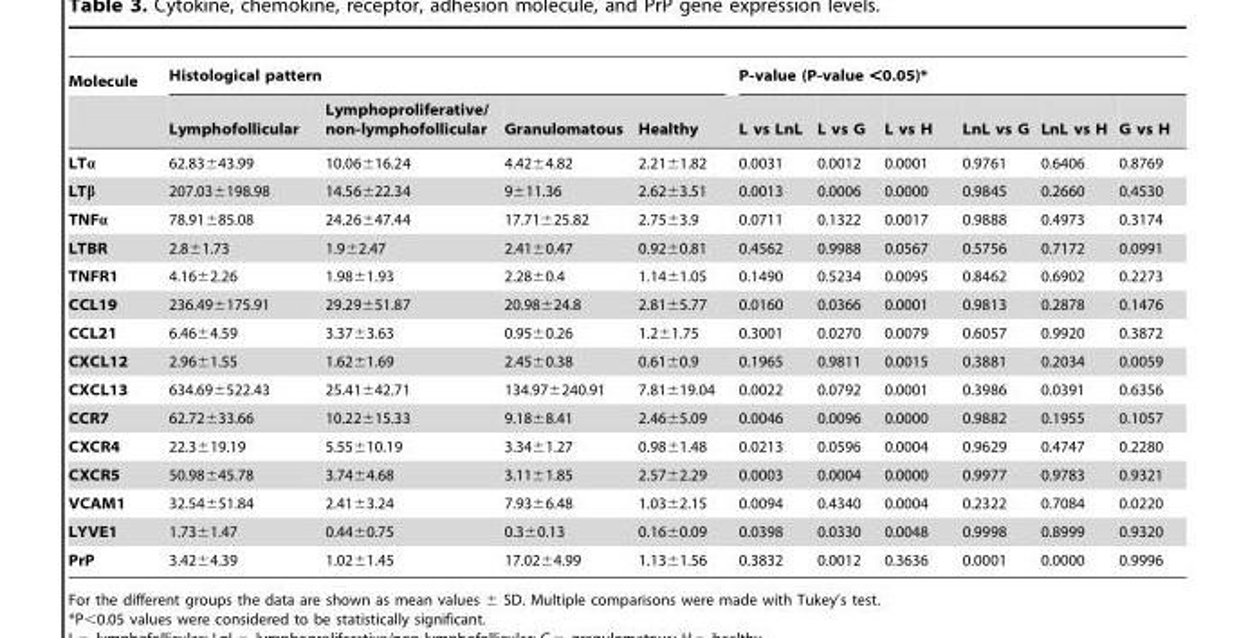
<table><thead><tr><td rowspan="2">Molecule</td><td colspan="4">Histological pattern</td><td colspan="6">P-value (P-value &lt;0.05)*</td></tr><tr><td>Lymphofollicular</td><td>Lymphoproliferative/ non-lymphofollicular</td><td>Granulomatous</td><td>Healthy</td><td>L vs LnL</td><td>L vs G</td><td>L vs H</td><td>LnL vs G</td><td>LnL vs H</td><td>G vs H</td></tr></thead><tbody><tr><td>LTα</td><td>62.83±43.99</td><td>10.06±16.24</td><td>4.42±4.82</td><td>2.21±1.82</td><td>0.0031</td><td>0.0012</td><td>0.0001</td><td>0.9761</td><td>0.6406</td><td>0.8769</td></tr><tr><td>LTβ</td><td>207.03±198.98</td><td>14.56±22.34</td><td>9±11.36</td><td>2.62±3.51</td><td>0.0013</td><td>0.0006</td><td>0.0000</td><td>0.9845</td><td>0.2660</td><td>0.4530</td></tr><tr><td>TNFα</td><td>78.91±85.08</td><td>24.26±47.44</td><td>17.71±25.82</td><td>2.75±3.9</td><td>0.0711</td><td>0.1322</td><td>0.0017</td><td>0.9888</td><td>0.4973</td><td>0.3174</td></tr><tr><td>LTBR</td><td>2.8±1.73</td><td>1.9±2.47</td><td>2.41±0.47</td><td>0.92±0.81</td><td>0.4562</td><td>0.9988</td><td>0.0567</td><td>0.5756</td><td>0.7172</td><td>0.0991</td></tr><tr><td>TNFR1</td><td>4.16±2.26</td><td>1.98±1.93</td><td>2.28±0.4</td><td>1.14±1.05</td><td>0.1490</td><td>0.5234</td><td>0.0095</td><td>0.8462</td><td>0.6902</td><td>0.2273</td></tr><tr><td>CCL19</td><td>236.49±175.91</td><td>29.29±51.87</td><td>20.98±24.8</td><td>2.81±5.77</td><td>0.0160</td><td>0.0366</td><td>0.0001</td><td>0.9813</td><td>0.2878</td><td>0.1476</td></tr><tr><td>CCL21</td><td>6.46±4.59</td><td>3.37±3.63</td><td>0.95±0.26</td><td>1.2±1.75</td><td>0.3001</td><td>0.0270</td><td>0.0079</td><td>0.6057</td><td>0.9920</td><td>0.3872</td></tr><tr><td>CXCL12</td><td>2.96±1.55</td><td>1.62±1.69</td><td>2.45±0.38</td><td>0.61±0.9</td><td>0.1965</td><td>0.9811</td><td>0.0015</td><td>0.3881</td><td>0.2034</td><td>0.0059</td></tr><tr><td>CXCL13</td><td>634.69±522.43</td><td>25.41±42.71</td><td>134.97±240.91</td><td>7.81±19.04</td><td>0.0022</td><td>0.0792</td><td>0.0001</td><td>0.3986</td><td>0.0391</td><td>0.6356</td></tr><tr><td>CCR7</td><td>62.72±33.66</td><td>10.22±15.33</td><td>9.18±8.41</td><td>2.46±5.09</td><td>0.0046</td><td>0.0096</td><td>0.0000</td><td>0.9882</td><td>0.1955</td><td>0.1057</td></tr><tr><td>CXCR4</td><td>22.3±19.19</td><td>5.55±10.19</td><td>3.34±1.27</td><td>0.98±1.48</td><td>0.0213</td><td>0.0596</td><td>0.0004</td><td>0.9629</td><td>0.4747</td><td>0.2280</td></tr><tr><td>CXCR5</td><td>50.98±45.78</td><td>3.74±4.68</td><td>3.11±1.85</td><td>2.57±2.29</td><td>0.0003</td><td>0.0004</td><td>0.0000</td><td>0.9977</td><td>0.9783</td><td>0.9321</td></tr><tr><td>VCAM1</td><td>32.54±51.84</td><td>2.41±3.24</td><td>7.93±6.48</td><td>1.03±2.15</td><td>0.0094</td><td>0.4340</td><td>0.0004</td><td>0.2322</td><td>0.7084</td><td>0.0220</td></tr><tr><td>LYVE1</td><td>1.73±1.47</td><td>0.44±0.75</td><td>0.3±0.13</td><td>0.16±0.09</td><td>0.0398</td><td>0.0330</td><td>0.0048</td><td>0.9998</td><td>0.8999</td><td>0.9320</td></tr><tr><td>PrP</td><td>3.42±4.39</td><td>1.02±1.45</td><td>17.02±4.99</td><td>1.13±1.56</td><td>0.3832</td><td>0.0012</td><td>0.3636</td><td>0.0001</td><td>0.0000</td><td>0.9996</td></tr></tbody></table>